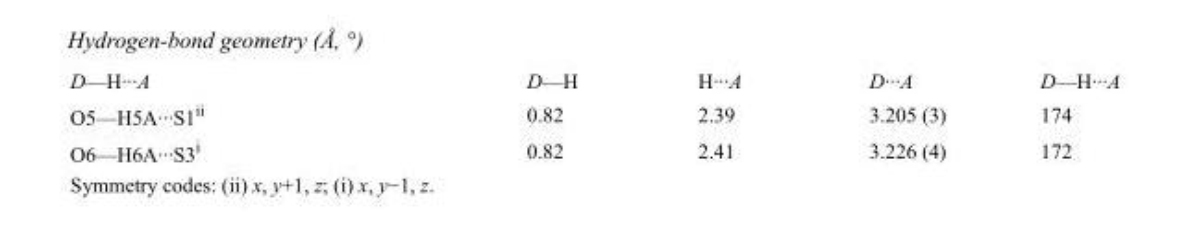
<table><tbody><tr><td>D—H···A</td><td>D—H</td><td>H···A</td><td>D···A</td><td>D—H···A</td></tr><tr><td>O5—H5A···S1<sup>ii</sup></td><td>0.82</td><td>2.39</td><td>3.205 (3)</td><td>174</td></tr><tr><td>O6—H6A···S3<sup>i</sup></td><td>0.82</td><td>2.41</td><td>3.226 (4)</td><td>172</td></tr></tbody></table>